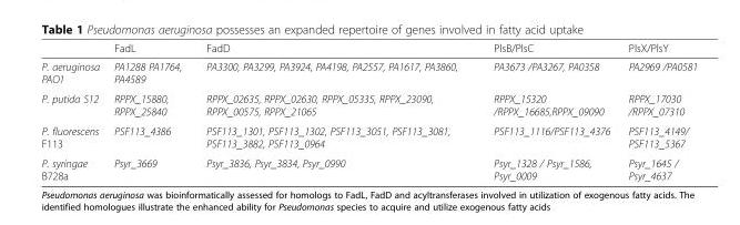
<table><thead><tr><td></td><td>FadL</td><td>FadD</td><td>PlsB/PlsC</td><td>PlsX/PlsY</td></tr></thead><tbody><tr><td>P. aeruginosa PAO1</td><td>PA1288 PA1764, PA4589</td><td>PA3300, PA3299, PA3924, PA4198, PA2557, PA1617, PA3860,</td><td>PA3673 /PA3267, PA0358</td><td>PA2969 /PA0581</td></tr><tr><td>P. putida S12</td><td>RPPX_15880, RPPX_25840</td><td>RPPX_02635, RPPX_02630, RPPX_05335, RPPX_23090, RPPX_00575, RPPX_21065</td><td>RPPX_15320 /RPPX_16685,RPPX_09090</td><td>RPPX_17030 /RPPX_07310</td></tr><tr><td>P. fluorescens F113</td><td>PSF113_4386</td><td>PSF113_1301, PSF113_1302, PSF113_3051, PSF113_3081, PSF113_3882, PSF113_0964</td><td>PSF113_1116/PSF113_4376</td><td>PSF113_4149/ PSF113_5367</td></tr><tr><td>P. syringae B728a</td><td>Psyr_3669</td><td>Psyr_3836, Psyr_3834, Psyr_0990</td><td>Psyr_1328 / Psyr_1586, Psyr_0009</td><td>Psyr_1645 / Psyr_4637</td></tr></tbody></table>